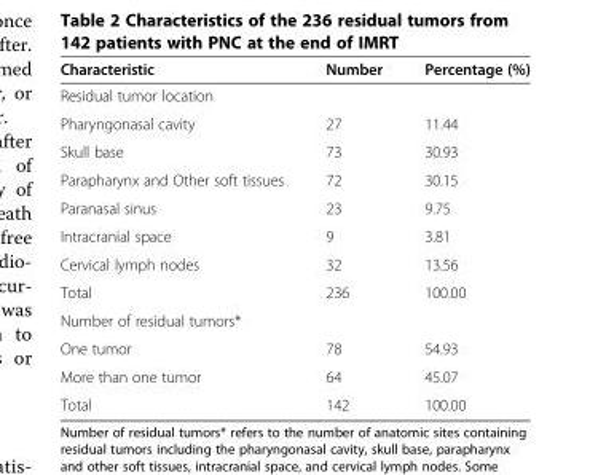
<table><thead><tr><td>Characteristic</td><td>Number</td><td>Percentage (%)</td></tr></thead><tbody><tr><td colspan="3">Residual tumor location</td></tr><tr><td>Pharyngonasal cavity</td><td>27</td><td>11.44</td></tr><tr><td>Skull base</td><td>73</td><td>30.93</td></tr><tr><td>Parapharynx and Other soft tissues</td><td>72</td><td>30.15</td></tr><tr><td>Paranasal sinus</td><td>23</td><td>9.75</td></tr><tr><td>Intracranial space</td><td>9</td><td>3.81</td></tr><tr><td>Cervical lymph nodes</td><td>32</td><td>13.56</td></tr><tr><td>Total</td><td>236</td><td>100.00</td></tr><tr><td colspan="3">Number of residual tumors*</td></tr><tr><td>One tumor</td><td>78</td><td>54.93</td></tr><tr><td>More than one tumor</td><td>64</td><td>45.07</td></tr><tr><td>Total</td><td>142</td><td>100.00</td></tr></tbody></table>